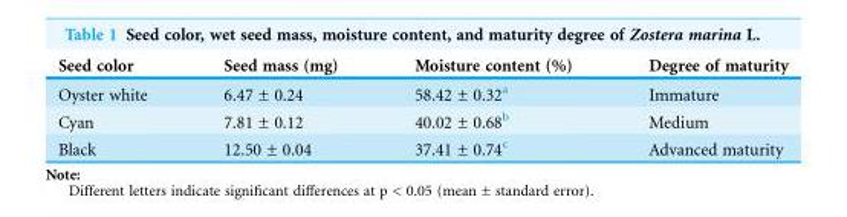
<table><thead><tr><td>Seed color</td><td>Seed mass (mg)</td><td>Moisture content (%)</td><td>Degree of maturity</td></tr></thead><tbody><tr><td>Oyster white</td><td>6.47 ± 0.24</td><td>58.42 ± 0.32<sup>a</sup></td><td>Immature</td></tr><tr><td>Cyan</td><td>7.81 ± 0.12</td><td>40.02 ± 0.68<sup>b</sup></td><td>Medium</td></tr><tr><td>Black</td><td>12.50 ± 0.04</td><td>37.41 ± 0.74<sup>c</sup></td><td>Advanced maturity</td></tr></tbody></table>